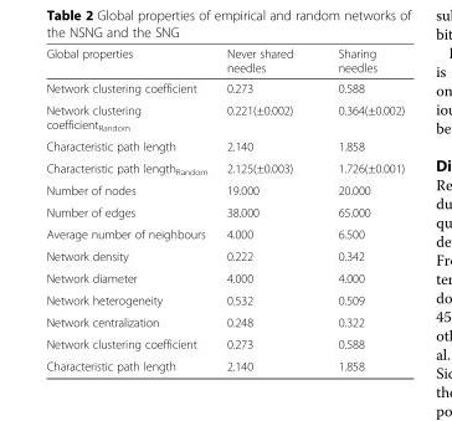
<table><thead><tr><td>Global properties</td><td>Never shared needles</td><td>Sharing needles</td></tr></thead><tbody><tr><td>Network clustering coefficient</td><td>0.273</td><td>0.588</td></tr><tr><td>Network clustering coefficient<sub>Random</sub></td><td>0.221(±0.002)</td><td>0.364(±0.002)</td></tr><tr><td>Characteristic path length</td><td>2.140</td><td>1.858</td></tr><tr><td>Characteristic path length<sub>Random</sub></td><td>2.125(±0.003)</td><td>1.726(±0.001)</td></tr><tr><td>Number of nodes</td><td>19.000</td><td>20.000</td></tr><tr><td>Number of edges</td><td>38.000</td><td>65.000</td></tr><tr><td>Average number of neighbours</td><td>4.000</td><td>6.500</td></tr><tr><td>Network density</td><td>0.222</td><td>0.342</td></tr><tr><td>Network diameter</td><td>4.000</td><td>4.000</td></tr><tr><td>Network heterogeneity</td><td>0.532</td><td>0.509</td></tr><tr><td>Network centralization</td><td>0.248</td><td>0.322</td></tr><tr><td>Network clustering coefficient</td><td>0.273</td><td>0.588</td></tr><tr><td>Characteristic path length</td><td>2.140</td><td>1.858</td></tr></tbody></table>